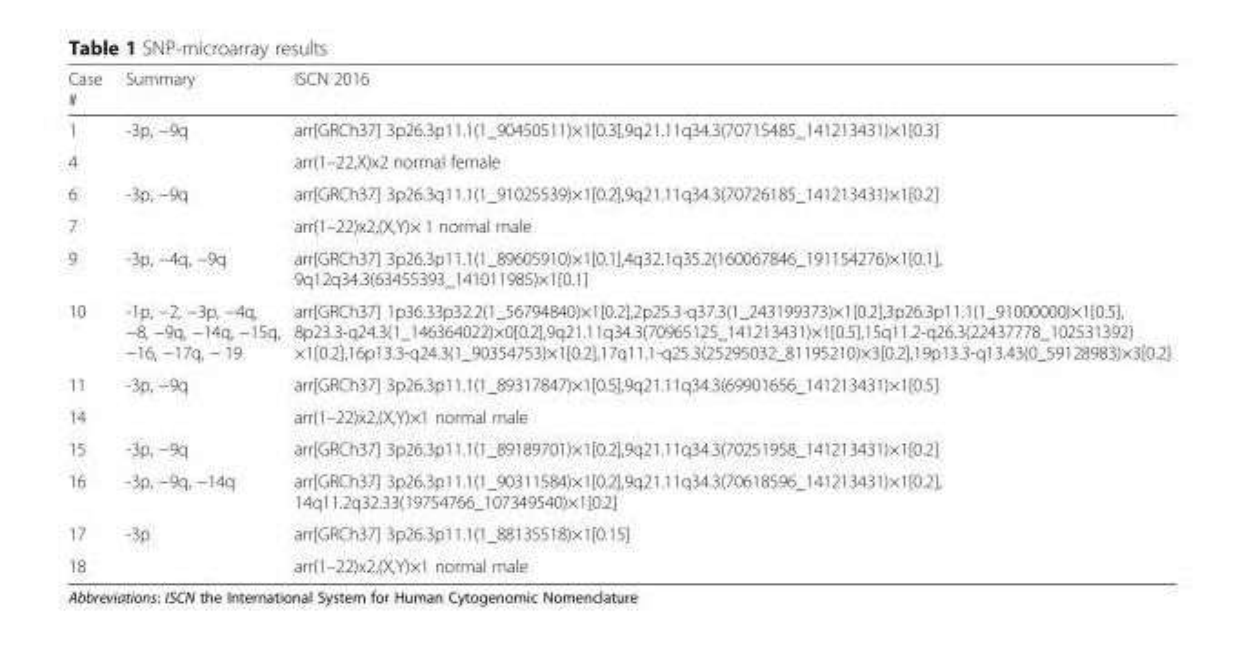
<table><thead><tr><td>Case #</td><td>Summary</td><td>ISCN 2016</td></tr></thead><tbody><tr><td>1</td><td>-3p, −9q</td><td>arr[GRCh37] 3p26.3p11.1(1_90450511)×1[0.3],9q21.11q34.3(70715485_141213431)×1[0.3]</td></tr><tr><td>4</td><td></td><td>arr(1–22,X)x2 normal female</td></tr><tr><td>6</td><td>-3p, −9q</td><td>arr[GRCh37] 3p26.3q11.1(1_91025539)×1[0.2],9q21.11q34.3(70726185_141213431)×1[0.2]</td></tr><tr><td>7</td><td></td><td>arr(1–22)x2,(X,Y)× 1 normal male</td></tr><tr><td>9</td><td>-3p, −4q, −9q</td><td>arr[GRCh37] 3p26.3p11.1(1_89605910)×1[0.1],4q32.1q35.2(160067846_191154276)×1[0.1], 9q12q34.3(63455393_141011985)×1[0.1]</td></tr><tr><td>10</td><td>-1p, −2, −3p, −4q, −8, −9q, −14q, −15q, −16, −17q, − 19</td><td>arr[GRCh37] 1p36.33p32.2(1_56794840)×1[0.2],2p25.3-q37.3(1_243199373)×1[0.2],3p26.3p11.1(1_91000000)×1[0.5], 8p23.3-q24.3(1_146364022)×0[0.2],9q21.11q34.3(70965125_141213431)×1[0.5],15q11.2-q26.3(22437778_102531392) ×1[0.2],16p13.3-q24.3(1_90354753)×1[0.2],17q11.1-q25.3(25295032_81195210)×3[0.2],19p13.3-q13.43(0_59128983)×3[0.2]</td></tr><tr><td>11</td><td>-3p, −9q</td><td>arr[GRCh37] 3p26.3p11.1(1_89317847)×1[0.5],9q21.11q34.3(69901656_141213431)×1[0.5]</td></tr><tr><td>14</td><td></td><td>arr(1–22)x2,(X,Y)×1 normal male</td></tr><tr><td>15</td><td>-3p, −9q</td><td>arr[GRCh37] 3p26.3p11.1(1_89189701)×1[0.2],9q21.11q34.3(70251958_141213431)×1[0.2]</td></tr><tr><td>16</td><td>-3p, −9q, −14q</td><td>arr[GRCh37] 3p26.3p11.1(1_90311584)×1[0.2],9q21.11q34.3(70618596_141213431)×1[0.2], 14q11.2q32.33(19754766_107349540)×1[0.2]</td></tr><tr><td>17</td><td>-3p</td><td>arr[GRCh37] 3p26.3p11.1(1_88135518)×1[0.15]</td></tr><tr><td>18</td><td></td><td>arr(1–22)x2,(X,Y)×1 normal male</td></tr></tbody></table>